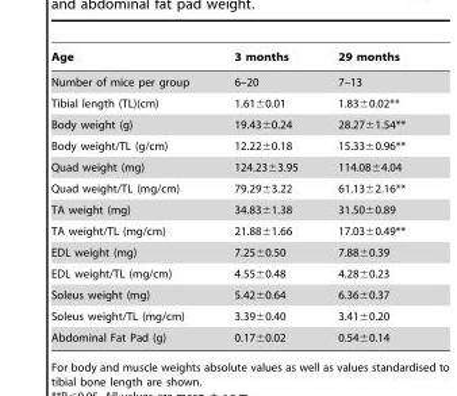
<table><thead><tr><td>Age</td><td>3 months</td><td>29 months</td></tr></thead><tbody><tr><td>Number of mice per group</td><td>6–20</td><td>7–13</td></tr><tr><td>Tibial length (TL)(cm)</td><td>1.61±0.01</td><td>1.83±0.02**</td></tr><tr><td>Body weight (g)</td><td>19.43±0.24</td><td>28.27±1.54**</td></tr><tr><td>Body weight/TL (g/cm)</td><td>12.22±0.18</td><td>15.33±0.96**</td></tr><tr><td>Quad weight (mg)</td><td>124.23±3.95</td><td>114.08±4.04</td></tr><tr><td>Quad weight/TL (mg/cm)</td><td>79.29±3.22</td><td>61.13±2.16**</td></tr><tr><td>TA weight (mg)</td><td>34.83±1.38</td><td>31.50±0.89</td></tr><tr><td>TA weight/TL (mg/cm)</td><td>21.88±1.66</td><td>17.03±0.49**</td></tr><tr><td>EDL weight (mg)</td><td>7.25±0.50</td><td>7.88±0.39</td></tr><tr><td>EDL weight/TL (mg/cm)</td><td>4.55±0.48</td><td>4.28±0.23</td></tr><tr><td>Soleus weight (mg)</td><td>5.42±0.64</td><td>6.36±0.37</td></tr><tr><td>Soleus weight/TL (mg/cm)</td><td>3.39±0.40</td><td>3.41±0.20</td></tr><tr><td>Abdominal Fat Pad (g)</td><td>0.17±0.02</td><td>0.54±0.14</td></tr></tbody></table>